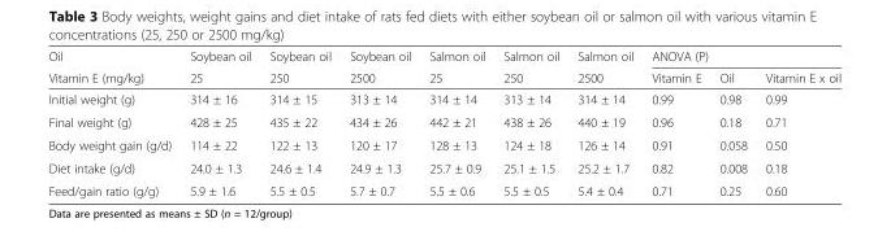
<table><thead><tr><td rowspan="2">Oil Vitamin E (mg/kg)</td><td rowspan="2">Soybean oil 25</td><td rowspan="2">Soybean oil 250</td><td rowspan="2">Soybean oil 2500</td><td rowspan="2">Salmon oil 25</td><td rowspan="2">Salmon oil 250</td><td rowspan="2">Salmon oil 2500</td><td colspan="3">ANOVA (P)</td></tr><tr><td>Vitamin E</td><td>Oil</td><td>Vitamin E x oil</td></tr></thead><tbody><tr><td>Initial weight (g)</td><td>314 ± 16</td><td>314 ± 15</td><td>313 ± 14</td><td>314 ± 14</td><td>313 ± 14</td><td>314 ± 14</td><td>0.99</td><td>0.98</td><td>0.99</td></tr><tr><td>Final weight (g)</td><td>428 ± 25</td><td>435 ± 22</td><td>434 ± 26</td><td>442 ± 21</td><td>438 ± 26</td><td>440 ± 19</td><td>0.96</td><td>0.18</td><td>0.71</td></tr><tr><td>Body weight gain (g/d)</td><td>114 ± 22</td><td>122 ± 13</td><td>120 ± 17</td><td>128 ± 13</td><td>124 ± 18</td><td>126 ± 14</td><td>0.91</td><td>0.058</td><td>0.50</td></tr><tr><td>Diet intake (g/d)</td><td>24.0 ± 1.3</td><td>24.6 ± 1.4</td><td>24.9 ± 1.3</td><td>25.7 ± 0.9</td><td>25.1 ± 1.5</td><td>25.2 ± 1.7</td><td>0.82</td><td>0.008</td><td>0.18</td></tr><tr><td>Feed/gain ratio (g/g)</td><td>5.9 ± 1.6</td><td>5.5 ± 0.5</td><td>5.7 ± 0.7</td><td>5.5 ± 0.6</td><td>5.5 ± 0.5</td><td>5.4 ± 0.4</td><td>0.71</td><td>0.25</td><td>0.60</td></tr></tbody></table>